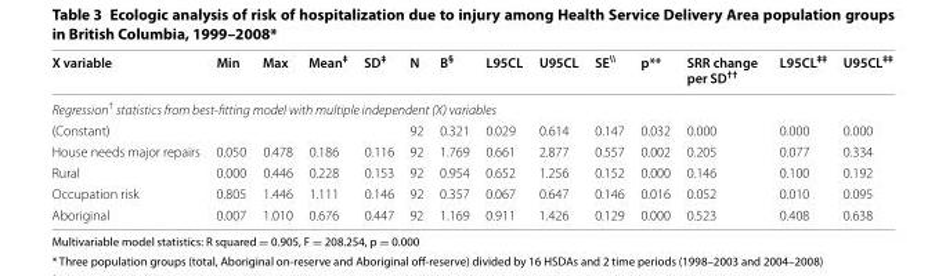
<table><thead><tr><td>X variable</td><td>Min</td><td>Max</td><td>Mean<sup>‡</sup></td><td>SD<sup>‡</sup></td><td>N</td><td>B<sup>§</sup></td><td>L95CL</td><td>U95CL</td><td>SE<sup>\\</sup></td><td>p**</td><td>SRR change per SD<sup>††</sup></td><td>L95CL<sup>‡‡</sup></td><td>U95CL<sup>‡‡</sup></td></tr></thead><tbody><tr><td colspan="14">Regression<sup>†</sup> statistics from best-fitting model with multiple independent (X) variables</td></tr><tr><td>(Constant)</td><td></td><td></td><td></td><td></td><td>92</td><td>0.321</td><td>0.029</td><td>0.614</td><td>0.147</td><td>0.032</td><td>0.000</td><td>0.000</td><td>0.000</td></tr><tr><td>House needs major repairs</td><td>0.050</td><td>0.478</td><td>0.186</td><td>0.116</td><td>92</td><td>1.769</td><td>0.661</td><td>2.877</td><td>0.557</td><td>0.002</td><td>0.205</td><td>0.077</td><td>0.334</td></tr><tr><td>Rural</td><td>0.000</td><td>0.446</td><td>0.228</td><td>0.153</td><td>92</td><td>0.954</td><td>0.652</td><td>1.256</td><td>0.152</td><td>0.000</td><td>0.146</td><td>0.100</td><td>0.192</td></tr><tr><td>Occupation risk</td><td>0.805</td><td>1.446</td><td>1.111</td><td>0.146</td><td>92</td><td>0.357</td><td>0.067</td><td>0.647</td><td>0.146</td><td>0.016</td><td>0.052</td><td>0.010</td><td>0.095</td></tr><tr><td>Aboriginal</td><td>0.007</td><td>1.010</td><td>0.676</td><td>0.447</td><td>92</td><td>1.169</td><td>0.911</td><td>1.426</td><td>0.129</td><td>0.000</td><td>0.523</td><td>0.408</td><td>0.638</td></tr></tbody></table>